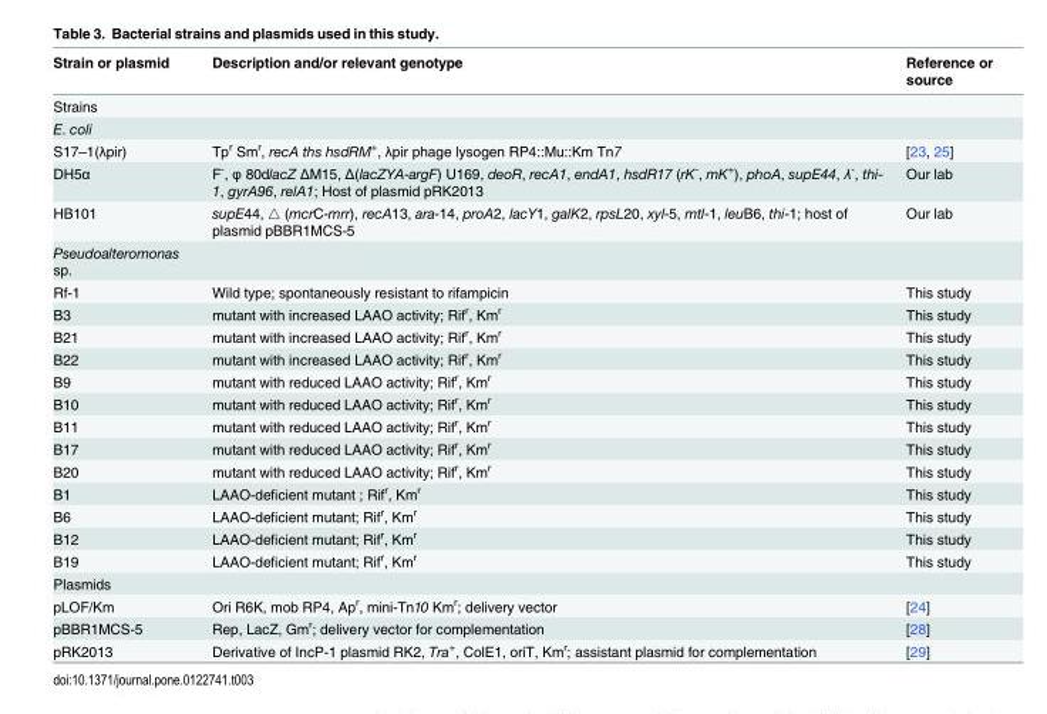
<table><thead><tr><td>Strain or plasmid</td><td>Description and/or relevant genotype</td><td>Reference or source</td></tr></thead><tbody><tr><td colspan="3">Strains</td></tr><tr><td colspan="3">E. coli</td></tr><tr><td>S17–1(λpir)</td><td>Tp<sup>r</sup> Sm<sup>r</sup>, recA ths hsdRM<sup>+</sup>, λpir phage lysogen RP4::Mu::Km Tn7</td><td>[23, 25]</td></tr><tr><td>DH5α</td><td>F<sup>-</sup>, φ 80dlacZ ΔM15, Δ(lacZYA-argF) U169, deoR, recA1, endA1, hsdR17 (rK<sup>-</sup>, mK<sup>+</sup>), phoA, supE44, λ<sup>-</sup>, thi- 1, gyrA96, relA1; Host of plasmid pRK2013</td><td>Our lab</td></tr><tr><td>HB101</td><td>supE44, △ (mcrC-mrr), recA13, ara-14, proA2, lacY1, galK2, rpsL20, xyl-5, mtl-1, leuB6, thi-1; host of plasmid pBBR1MCS-5</td><td>Our lab</td></tr><tr><td colspan="3">Pseudoalteromonas sp.</td></tr><tr><td>Rf-1</td><td>Wild type; spontaneously resistant to rifampicin</td><td>This study</td></tr><tr><td>B3</td><td>mutant with increased LAAO activity; Rif<sup>r</sup>, Km<sup>r</sup></td><td>This study</td></tr><tr><td>B21</td><td>mutant with increased LAAO activity; Rif<sup>r</sup>, Km<sup>r</sup></td><td>This study</td></tr><tr><td>B22</td><td>mutant with increased LAAO activity; Rif<sup>r</sup>, Km<sup>r</sup></td><td>This study</td></tr><tr><td>B9</td><td>mutant with reduced LAAO activity; Rif<sup>r</sup>, Km<sup>r</sup></td><td>This study</td></tr><tr><td>B10</td><td>mutant with reduced LAAO activity; Rif<sup>r</sup>, Km<sup>r</sup></td><td>This study</td></tr><tr><td>B11</td><td>mutant with reduced LAAO activity; Rif<sup>r</sup>, Km<sup>r</sup></td><td>This study</td></tr><tr><td>B17</td><td>mutant with reduced LAAO activity; Rif<sup>r</sup>, Km<sup>r</sup></td><td>This study</td></tr><tr><td>B20</td><td>mutant with reduced LAAO activity; Rif<sup>r</sup>, Km<sup>r</sup></td><td>This study</td></tr><tr><td>B1</td><td>LAAO-deficient mutant ; Rif<sup>r</sup>, Km<sup>r</sup></td><td>This study</td></tr><tr><td>B6</td><td>LAAO-deficient mutant; Rif<sup>r</sup>, Km<sup>r</sup></td><td>This study</td></tr><tr><td>B12</td><td>LAAO-deficient mutant; Rif<sup>r</sup>, Km<sup>r</sup></td><td>This study</td></tr><tr><td>B19</td><td>LAAO-deficient mutant; Rif<sup>r</sup>, Km<sup>r</sup></td><td>This study</td></tr><tr><td colspan="3">Plasmids</td></tr><tr><td>pLOF/Km</td><td>Ori R6K, mob RP4, Ap<sup>r</sup>, mini-Tn10 Km<sup>r</sup>; delivery vector</td><td>[24]</td></tr><tr><td>pBBR1MCS-5</td><td>Rep, LacZ, Gm<sup>r</sup>; delivery vector for complementation</td><td>[28]</td></tr><tr><td>pRK2013</td><td>Derivative of IncP-1 plasmid RK2, Tra<sup>+</sup>, ColE1, oriT, Km<sup>r</sup>; assistant plasmid for complementation</td><td>[29]</td></tr></tbody></table>